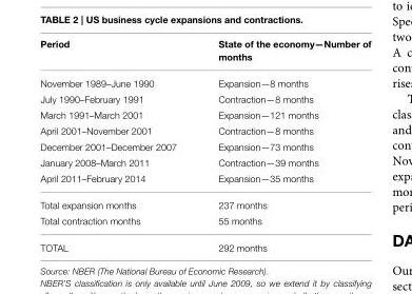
<table><thead><tr><td>Period</td><td>State of the economy—Number of months</td></tr></thead><tbody><tr><td>November 1989–June 1990</td><td>Expansion—8 months</td></tr><tr><td>July 1990–February 1991</td><td>Contraction—8 months</td></tr><tr><td>March 1991–March 2001</td><td>Expansion—121 months</td></tr><tr><td>April 2001–November 2001</td><td>Contraction—8 months</td></tr><tr><td>December 2001–December 2007</td><td>Expansion—73 months</td></tr><tr><td>January 2008–March 2011</td><td>Contraction—39 months</td></tr><tr><td>April 2011–February 2014</td><td>Expansion—35 months</td></tr><tr><td>Total expansion months</td><td>237 months</td></tr><tr><td>Total contraction months</td><td>55 months</td></tr><tr><td>TOTAL</td><td>292 months</td></tr></tbody></table>